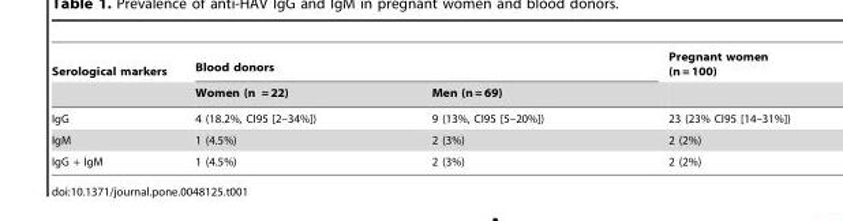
<table><thead><tr><td rowspan="2">Serological markers</td><td colspan="2">Blood donors</td><td rowspan="2">Pregnant women (n = 100)</td></tr><tr><td>Women (n = 22)</td><td>Men (n = 69)</td></tr></thead><tbody><tr><td>IgG</td><td>4 (18.2%, CI95 [2–34%])</td><td>9 (13%, CI95 [5–20%])</td><td>23 (23% CI95 [14–31%])</td></tr><tr><td>IgM</td><td>1 (4.5%)</td><td>2 (3%)</td><td>2 (2%)</td></tr><tr><td>IgG + IgM</td><td>1 (4.5%)</td><td>2 (3%)</td><td>2 (2%)</td></tr></tbody></table>